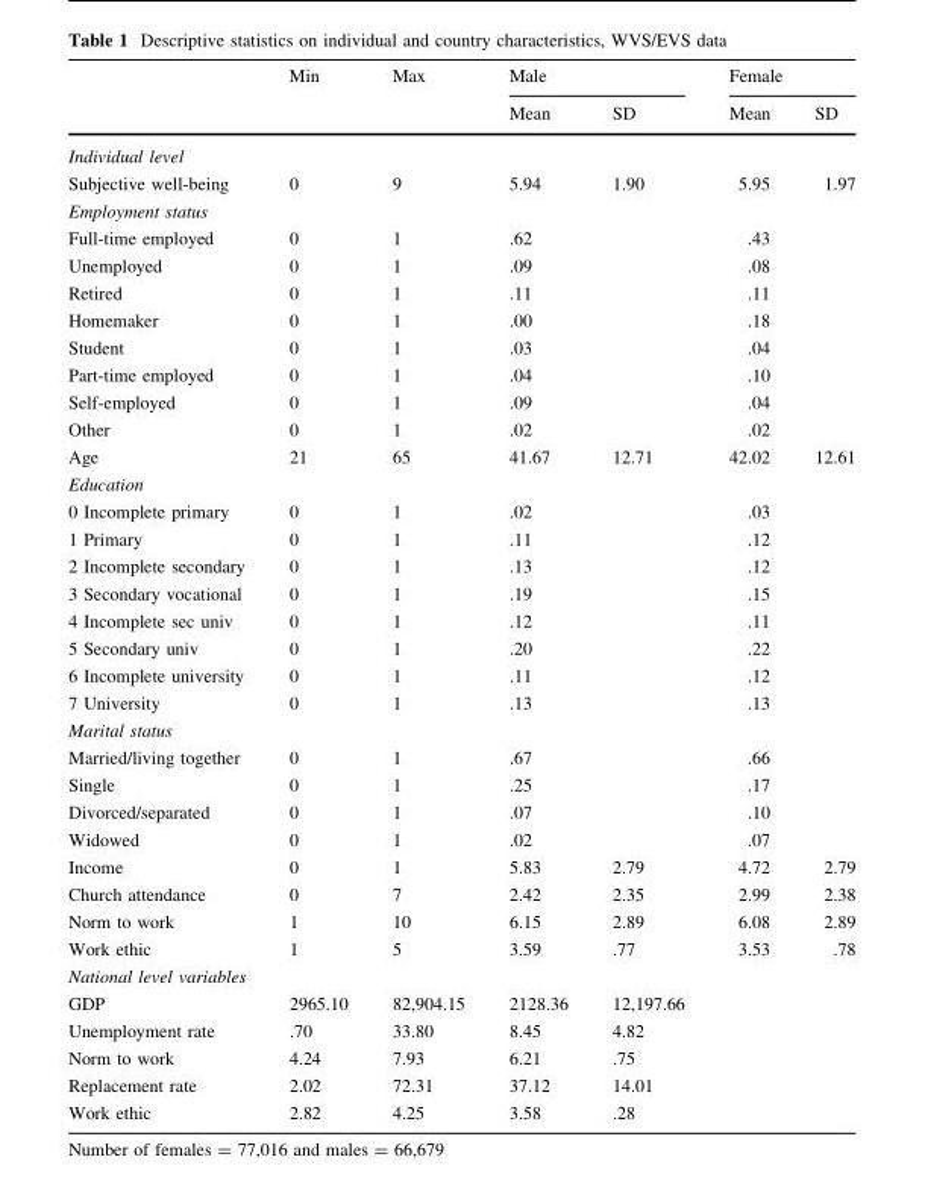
<table><thead><tr><td rowspan="2"></td><td rowspan="2">Min</td><td rowspan="2">Max</td><td colspan="2">Male</td><td colspan="2">Female</td></tr><tr><td>Mean</td><td>SD</td><td>Mean</td><td>SD</td></tr></thead><tbody><tr><td colspan="7">Individual level</td></tr><tr><td>Subjective well-being</td><td>0</td><td>9</td><td>5.94</td><td>1.90</td><td>5.95</td><td>1.97</td></tr><tr><td colspan="7">Employment status</td></tr><tr><td>Full-time employed</td><td>0</td><td>1</td><td>.62</td><td></td><td>.43</td><td></td></tr><tr><td>Unemployed</td><td>0</td><td>1</td><td>.09</td><td></td><td>.08</td><td></td></tr><tr><td>Retired</td><td>0</td><td>1</td><td>.11</td><td></td><td>.11</td><td></td></tr><tr><td>Homemaker</td><td>0</td><td>1</td><td>.00</td><td></td><td>.18</td><td></td></tr><tr><td>Student</td><td>0</td><td>1</td><td>.03</td><td></td><td>.04</td><td></td></tr><tr><td>Part-time employed</td><td>0</td><td>1</td><td>.04</td><td></td><td>.10</td><td></td></tr><tr><td>Self-employed</td><td>0</td><td>1</td><td>.09</td><td></td><td>.04</td><td></td></tr><tr><td>Other</td><td>0</td><td>1</td><td>.02</td><td></td><td>.02</td><td></td></tr><tr><td>Age</td><td>21</td><td>65</td><td>41.67</td><td>12.71</td><td>42.02</td><td>12.61</td></tr><tr><td colspan="7">Education</td></tr><tr><td>0 Incomplete primary</td><td>0</td><td>1</td><td>.02</td><td></td><td>.03</td><td></td></tr><tr><td>1 Primary</td><td>0</td><td>1</td><td>.11</td><td></td><td>.12</td><td></td></tr><tr><td>2 Incomplete secondary</td><td>0</td><td>1</td><td>.13</td><td></td><td>.12</td><td></td></tr><tr><td>3 Secondary vocational</td><td>0</td><td>1</td><td>.19</td><td></td><td>.15</td><td></td></tr><tr><td>4 Incomplete sec univ</td><td>0</td><td>1</td><td>.12</td><td></td><td>.11</td><td></td></tr><tr><td>5 Secondary univ</td><td>0</td><td>1</td><td>.20</td><td></td><td>.22</td><td></td></tr><tr><td>6 Incomplete university</td><td>0</td><td>1</td><td>.11</td><td></td><td>.12</td><td></td></tr><tr><td>7 University</td><td>0</td><td>1</td><td>.13</td><td></td><td>.13</td><td></td></tr><tr><td colspan="7">Marital status</td></tr><tr><td>Married/living together</td><td>0</td><td>1</td><td>.67</td><td></td><td>.66</td><td></td></tr><tr><td>Single</td><td>0</td><td>1</td><td>.25</td><td></td><td>.17</td><td></td></tr><tr><td>Divorced/separated</td><td>0</td><td>1</td><td>.07</td><td></td><td>.10</td><td></td></tr><tr><td>Widowed</td><td>0</td><td>1</td><td>.02</td><td></td><td>.07</td><td></td></tr><tr><td>Income</td><td>0</td><td>1</td><td>5.83</td><td>2.79</td><td>4.72</td><td>2.79</td></tr><tr><td>Church attendance</td><td>0</td><td>7</td><td>2.42</td><td>2.35</td><td>2.99</td><td>2.38</td></tr><tr><td>Norm to work</td><td>1</td><td>10</td><td>6.15</td><td>2.89</td><td>6.08</td><td>2.89</td></tr><tr><td>Work ethic</td><td>1</td><td>5</td><td>3.59</td><td>.77</td><td>3.53</td><td>.78</td></tr><tr><td colspan="7">National level variables</td></tr><tr><td>GDP</td><td>2965.10</td><td>82,904.15</td><td>2128.36</td><td>12,197.66</td><td></td><td></td></tr><tr><td>Unemployment rate</td><td>.70</td><td>33.80</td><td>8.45</td><td>4.82</td><td></td><td></td></tr><tr><td>Norm to work</td><td>4.24</td><td>7.93</td><td>6.21</td><td>.75</td><td></td><td></td></tr><tr><td>Replacement rate</td><td>2.02</td><td>72.31</td><td>37.12</td><td>14.01</td><td></td><td></td></tr><tr><td>Work ethic</td><td>2.82</td><td>4.25</td><td>3.58</td><td>.28</td><td></td><td></td></tr></tbody></table>